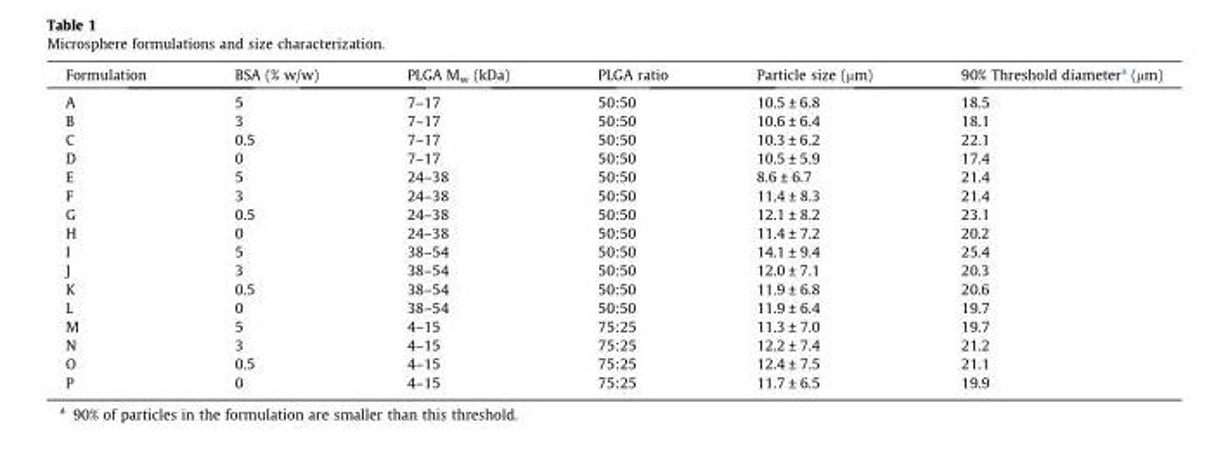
<table><thead><tr><td>Formulation</td><td>BSA (% w/w)</td><td>PLGA M<sub>w</sub> (kDa)</td><td>PLGA ratio</td><td>Particle size (µm)</td><td>90% Threshold diameter<sup>a</sup> (µm)</td></tr></thead><tbody><tr><td>A</td><td>5</td><td>7–17</td><td>50:50</td><td>10.5 ± 6.8</td><td>18.5</td></tr><tr><td>B</td><td>3</td><td>7–17</td><td>50:50</td><td>10.6 ± 6.4</td><td>18.1</td></tr><tr><td>C</td><td>0.5</td><td>7–17</td><td>50:50</td><td>10.3 ± 6.2</td><td>22.1</td></tr><tr><td>D</td><td>0</td><td>7–17</td><td>50:50</td><td>10.5 ± 5.9</td><td>17.4</td></tr><tr><td>E</td><td>5</td><td>24–38</td><td>50:50</td><td>8.6 ± 6.7</td><td>21.4</td></tr><tr><td>F</td><td>3</td><td>24–38</td><td>50:50</td><td>11.4 ± 8.3</td><td>21.4</td></tr><tr><td>G</td><td>0.5</td><td>24–38</td><td>50:50</td><td>12.1 ± 8.2</td><td>23.1</td></tr><tr><td>H</td><td>0</td><td>24–38</td><td>50:50</td><td>11.4 ± 7.2</td><td>20.2</td></tr><tr><td>I</td><td>5</td><td>38–54</td><td>50:50</td><td>14.1 ± 9.4</td><td>25.4</td></tr><tr><td>J</td><td>3</td><td>38–54</td><td>50:50</td><td>12.0 ± 7.1</td><td>20.3</td></tr><tr><td>K</td><td>0.5</td><td>38–54</td><td>50:50</td><td>11.9 ± 6.8</td><td>20.6</td></tr><tr><td>L</td><td>0</td><td>38–54</td><td>50:50</td><td>11.9 ± 6.4</td><td>19.7</td></tr><tr><td>M</td><td>5</td><td>4–15</td><td>75:25</td><td>11.3 ± 7.0</td><td>19.7</td></tr><tr><td>N</td><td>3</td><td>4–15</td><td>75:25</td><td>12.2 ± 7.4</td><td>21.2</td></tr><tr><td>O</td><td>0.5</td><td>4–15</td><td>75:25</td><td>12.4 ± 7.5</td><td>21.1</td></tr><tr><td>P</td><td>0</td><td>4–15</td><td>75:25</td><td>11.7 ± 6.5</td><td>19.9</td></tr></tbody></table>